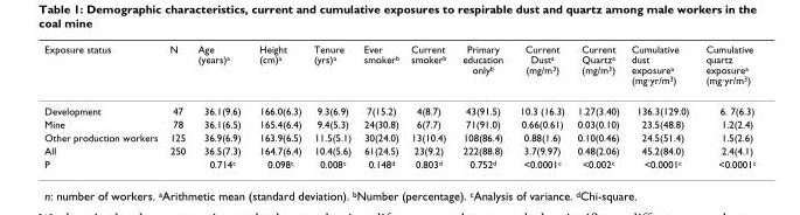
<table><thead><tr><td>Exposure status</td><td>N</td><td>Age (years)<sup>a</sup></td><td>Height (cm)<sup>a</sup></td><td>Tenure (yrs)<sup>a</sup></td><td>Ever smoker<sup>b</sup></td><td>Current smoker<sup>b</sup></td><td>Primary education only<sup>b</sup></td><td>Current Dust<sup>a</sup> (mg/m<sup>3</sup>)</td><td>Current Quartz<sup>a</sup> (mg/m<sup>3</sup>)</td><td>Cumulative dust exposure<sup>a</sup> (mg·yr/m<sup>3</sup>)</td><td>Cumulative quartz exposure<sup>a</sup> (mg·yr/m<sup>3</sup>)</td></tr></thead><tbody><tr><td>Development</td><td>47</td><td>36.1(9.6)</td><td>166.0(6.3)</td><td>9.3(6.9)</td><td>7(15.2)</td><td>4(8.7)</td><td>43(91.5)</td><td>10.3 (16.3)</td><td>1.27(3.40)</td><td>136.3(129.0)</td><td>6. 7(6.3)</td></tr><tr><td>Mine</td><td>78</td><td>36.1(6.5)</td><td>165.4(6.4)</td><td>9.4(5.3)</td><td>24(30.8)</td><td>6(7.7)</td><td>71(91.0)</td><td>0.66(0.61)</td><td>0.03(0.10)</td><td>23.5(48.8)</td><td>1.2(2.4)</td></tr><tr><td>Other production workers</td><td>125</td><td>36.9(6.9)</td><td>163.9(6.5)</td><td>11.5(5.1)</td><td>30(24.0)</td><td>13(10.4)</td><td>108(86.4)</td><td>0.88(1.6)</td><td>0.10(0.46)</td><td>24.5(51.4)</td><td>1.5(2.6)</td></tr><tr><td>All</td><td>250</td><td>36.5(7.3)</td><td>164.7(6.4)</td><td>10.4(5.6)</td><td>61(24.5)</td><td>23(9.2)</td><td>222(88.8)</td><td>3.7(9.97)</td><td>0.48(2.06)</td><td>45.2(84.0)</td><td>2.4(4.1)</td></tr><tr><td>P</td><td></td><td>0.714<sup>c</sup></td><td>0.098<sup>c</sup></td><td>0.008<sup>c</sup></td><td>0.148<sup>d</sup></td><td>0.803<sup>d</sup></td><td>0.752<sup>d</sup></td><td>&lt;0.0001<sup>c</sup></td><td>&lt;0.002<sup>c</sup></td><td>&lt;0.0001<sup>c</sup></td><td>&lt;0.0001<sup>c</sup></td></tr></tbody></table>